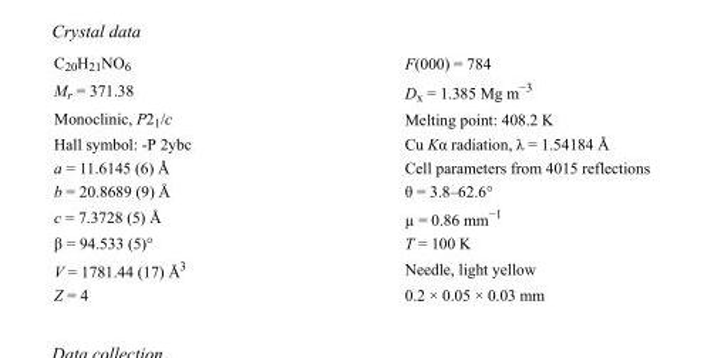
<table><tbody><tr><td>C<sub>20</sub>H<sub>21</sub>NO<sub>6</sub></td><td>F(000) = 784</td></tr><tr><td>M<sub>r</sub> = 371.38</td><td>D<sub>x</sub> = 1.385 Mg m<sup>−3</sup></td></tr><tr><td>Monoclinic, P2<sub>1</sub>/c</td><td>Melting point: 408.2 K</td></tr><tr><td>Hall symbol: -P 2ybc</td><td>Cu Kα radiation, λ = 1.54184 Å</td></tr><tr><td>a = 11.6145 (6) Å</td><td>Cell parameters from 4015 reflections</td></tr><tr><td>b = 20.8689 (9) Å</td><td>θ = 3.8–62.6°</td></tr><tr><td>c = 7.3728 (5) Å</td><td>µ = 0.86 mm<sup>−1</sup></td></tr><tr><td>β = 94.533 (5)°</td><td>T = 100 K</td></tr><tr><td>V = 1781.44 (17) Å<sup>3</sup></td><td>Needle, light yellow</td></tr><tr><td>Z = 4</td><td>0.2 × 0.05 × 0.03 mm</td></tr></tbody></table>